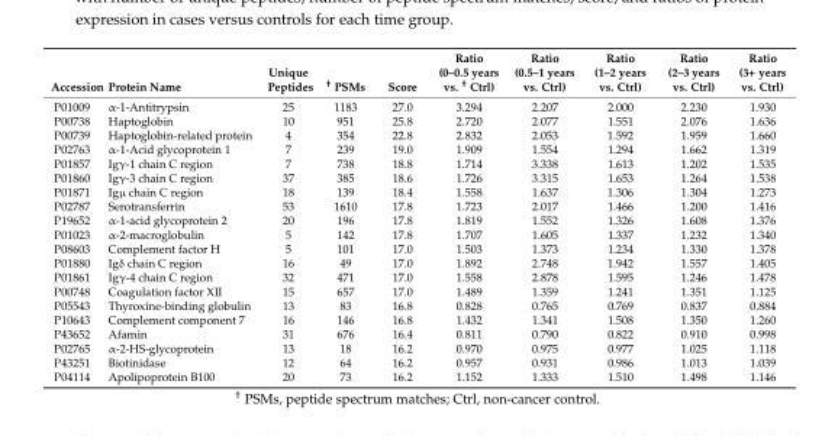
<table><thead><tr><td>Accession</td><td>Protein Name</td><td>Unique Peptides</td><td><sup>†</sup> PSMs</td><td>Score</td><td>Ratio (0–0.5 years vs. <sup>†</sup> Ctrl)</td><td>Ratio (0.5–1 years vs. Ctrl)</td><td>Ratio (1–2 years vs. Ctrl)</td><td>Ratio (2–3 years vs. Ctrl)</td><td>Ratio (3+ years vs. Ctrl)</td></tr></thead><tbody><tr><td>P01009</td><td>α-1-Antitrypsin</td><td>25</td><td>1183</td><td>27.0</td><td>3.294</td><td>2.207</td><td>2.000</td><td>2.230</td><td>1.930</td></tr><tr><td>P00738</td><td>Haptoglobin</td><td>10</td><td>951</td><td>25.8</td><td>2.720</td><td>2.077</td><td>1.551</td><td>2.076</td><td>1.636</td></tr><tr><td>P00739</td><td>Haptoglobin-related protein</td><td>4</td><td>354</td><td>22.8</td><td>2.832</td><td>2.053</td><td>1.592</td><td>1.959</td><td>1.660</td></tr><tr><td>P02763</td><td>α-1-Acid glycoprotein 1</td><td>7</td><td>239</td><td>19.0</td><td>1.909</td><td>1.554</td><td>1.294</td><td>1.662</td><td>1.319</td></tr><tr><td>P01857</td><td>Igγ-1 chain C region</td><td>7</td><td>738</td><td>18.8</td><td>1.714</td><td>3.338</td><td>1.613</td><td>1.202</td><td>1.535</td></tr><tr><td>P01860</td><td>Igγ-3 chain C region</td><td>37</td><td>385</td><td>18.6</td><td>1.726</td><td>3.315</td><td>1.653</td><td>1.264</td><td>1.538</td></tr><tr><td>P01871</td><td>Igµ chain C region</td><td>18</td><td>139</td><td>18.4</td><td>1.558</td><td>1.637</td><td>1.306</td><td>1.304</td><td>1.273</td></tr><tr><td>P02787</td><td>Serotransferrin</td><td>53</td><td>1610</td><td>17.8</td><td>1.723</td><td>2.017</td><td>1.466</td><td>1.200</td><td>1.416</td></tr><tr><td>P19652</td><td>α-1-acid glycoprotein 2</td><td>20</td><td>196</td><td>17.8</td><td>1.819</td><td>1.552</td><td>1.326</td><td>1.608</td><td>1.376</td></tr><tr><td>P01023</td><td>α-2-macroglobulin</td><td>5</td><td>142</td><td>17.8</td><td>1.707</td><td>1.605</td><td>1.337</td><td>1.232</td><td>1.340</td></tr><tr><td>P08603</td><td>Complement factor H</td><td>5</td><td>101</td><td>17.0</td><td>1.503</td><td>1.373</td><td>1.234</td><td>1.330</td><td>1.378</td></tr><tr><td>P01880</td><td>Igδ chain C region</td><td>16</td><td>49</td><td>17.0</td><td>1.892</td><td>2.748</td><td>1.942</td><td>1.557</td><td>1.405</td></tr><tr><td>P01861</td><td>Igγ-4 chain C region</td><td>32</td><td>471</td><td>17.0</td><td>1.558</td><td>2.878</td><td>1.595</td><td>1.246</td><td>1.478</td></tr><tr><td>P00748</td><td>Coagulation factor XII</td><td>15</td><td>657</td><td>17.0</td><td>1.489</td><td>1.359</td><td>1.241</td><td>1.351</td><td>1.125</td></tr><tr><td>P05543</td><td>Thyroxine-binding globulin</td><td>13</td><td>83</td><td>16.8</td><td>0.828</td><td>0.765</td><td>0.769</td><td>0.837</td><td>0.884</td></tr><tr><td>P10643</td><td>Complement component 7</td><td>16</td><td>146</td><td>16.8</td><td>1.432</td><td>1.341</td><td>1.508</td><td>1.350</td><td>1.260</td></tr><tr><td>P43652</td><td>Afamin</td><td>31</td><td>676</td><td>16.4</td><td>0.811</td><td>0.790</td><td>0.822</td><td>0.910</td><td>0.998</td></tr><tr><td>P02765</td><td>α-2-HS-glycoprotein</td><td>13</td><td>18</td><td>16.2</td><td>0.970</td><td>0.975</td><td>0.977</td><td>1.025</td><td>1.118</td></tr><tr><td>P43251</td><td>Biotinidase</td><td>12</td><td>64</td><td>16.2</td><td>0.957</td><td>0.931</td><td>0.986</td><td>1.013</td><td>1.039</td></tr><tr><td>P04114</td><td>Apolipoprotein B100</td><td>20</td><td>73</td><td>16.2</td><td>1.152</td><td>1.333</td><td>1.510</td><td>1.498</td><td>1.146</td></tr></tbody></table>